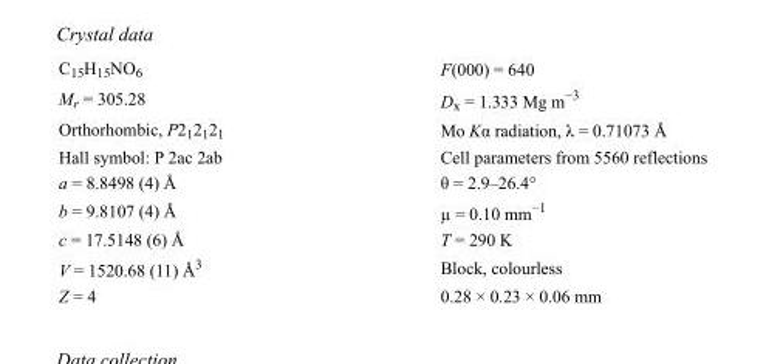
<table><tbody><tr><td>C<sub>15</sub>H<sub>15</sub>NO<sub>6</sub></td><td>F(000) = 640</td></tr><tr><td>M<sub>r</sub> = 305.28</td><td>D<sub>x</sub> = 1.333 Mg m<sup>−3</sup></td></tr><tr><td>Orthorhombic, P2<sub>1</sub>2<sub>1</sub>2<sub>1</sub></td><td>Mo Kα radiation, λ = 0.71073 Å</td></tr><tr><td>Hall symbol: P 2ac 2ab</td><td>Cell parameters from 5560 reflections</td></tr><tr><td>a = 8.8498 (4) Å</td><td>θ = 2.9–26.4°</td></tr><tr><td>b = 9.8107 (4) Å</td><td>µ = 0.10 mm<sup>−1</sup></td></tr><tr><td>c = 17.5148 (6) Å</td><td>T = 290 K</td></tr><tr><td>V = 1520.68 (11) Å<sup>3</sup></td><td>Block, colourless</td></tr><tr><td>Z = 4</td><td>0.28 × 0.23 × 0.06 mm</td></tr></tbody></table>